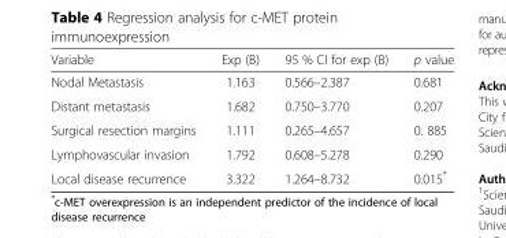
<table><thead><tr><td>Variable</td><td>Exp (B)</td><td>95 % CI for exp (B)</td><td>p value</td></tr></thead><tbody><tr><td>Nodal Metastasis</td><td>1.163</td><td>0.566–2.387</td><td>0.681</td></tr><tr><td>Distant metastasis</td><td>1.682</td><td>0.750–3.770</td><td>0.207</td></tr><tr><td>Surgical resection margins</td><td>1.111</td><td>0.265–4.657</td><td>0. 885</td></tr><tr><td>Lymphovascular invasion</td><td>1.792</td><td>0.608–5.278</td><td>0.290</td></tr><tr><td>Local disease recurrence</td><td>3.322</td><td>1.264–8.732</td><td>0.015*</td></tr></tbody></table>